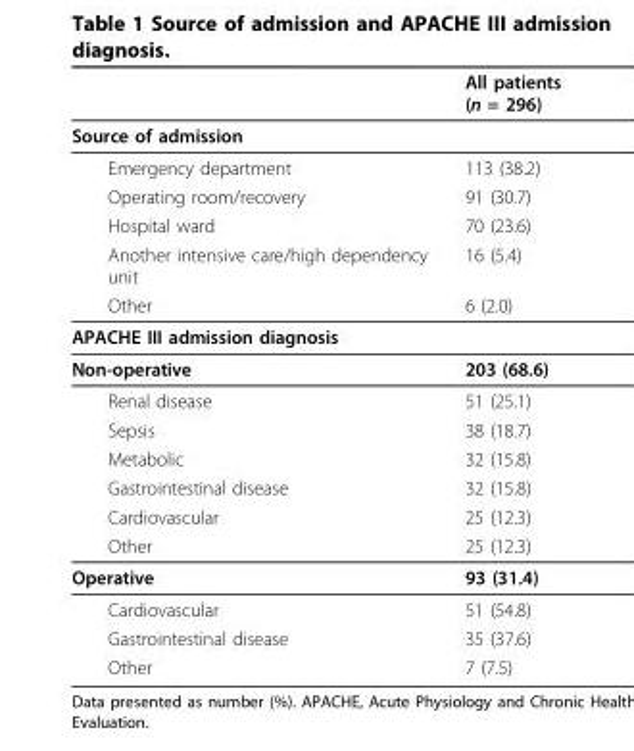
<table><thead><tr><td></td><td>All patients (n = 296)</td></tr></thead><tbody><tr><td colspan="2">Source of admission</td></tr><tr><td>Emergency department</td><td>113 (38.2)</td></tr><tr><td>Operating room/recovery</td><td>91 (30.7)</td></tr><tr><td>Hospital ward</td><td>70 (23.6)</td></tr><tr><td>Another intensive care/high dependency unit</td><td>16 (5.4)</td></tr><tr><td>Other</td><td>6 (2.0)</td></tr><tr><td colspan="2">APACHE III admission diagnosis</td></tr><tr><td>Non-operative</td><td>203 (68.6)</td></tr><tr><td>Renal disease</td><td>51 (25.1)</td></tr><tr><td>Sepsis</td><td>38 (18.7)</td></tr><tr><td>Metabolic</td><td>32 (15.8)</td></tr><tr><td>Gastrointestinal disease</td><td>32 (15.8)</td></tr><tr><td>Cardiovascular</td><td>25 (12.3)</td></tr><tr><td>Other</td><td>25 (12.3)</td></tr><tr><td>Operative</td><td>93 (31.4)</td></tr><tr><td>Cardiovascular</td><td>51 (54.8)</td></tr><tr><td>Gastrointestinal disease</td><td>35 (37.6)</td></tr><tr><td>Other</td><td>7 (7.5)</td></tr></tbody></table>